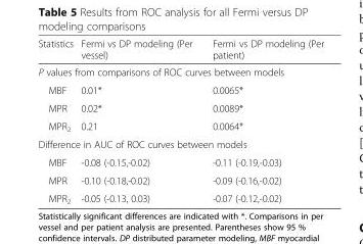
<table><thead><tr><td>Statistics</td><td>Fermi vs DP modeling (Per vessel)</td><td>Fermi vs DP modeling (Per patient)</td></tr></thead><tbody><tr><td colspan="3">P values from comparisons of ROC curves between models</td></tr><tr><td>MBF</td><td>0.01*</td><td>0.0065*</td></tr><tr><td>MPR</td><td>0.02*</td><td>0.0089*</td></tr><tr><td>MPR<sub>2</sub></td><td>0.21</td><td>0.0064*</td></tr><tr><td colspan="3">Difference in AUC of ROC curves between models</td></tr><tr><td>MBF</td><td>-0.08 (-0.15,-0.02)</td><td>-0.11 (-0.19,-0.03)</td></tr><tr><td>MPR</td><td>-0.10 (-0.18,-0.02)</td><td>-0.09 (-0.16,-0.02)</td></tr><tr><td>MPR<sub>2</sub></td><td>-0.05 (-0.13, 0.03)</td><td>-0.07 (-0.12,-0.02)</td></tr></tbody></table>